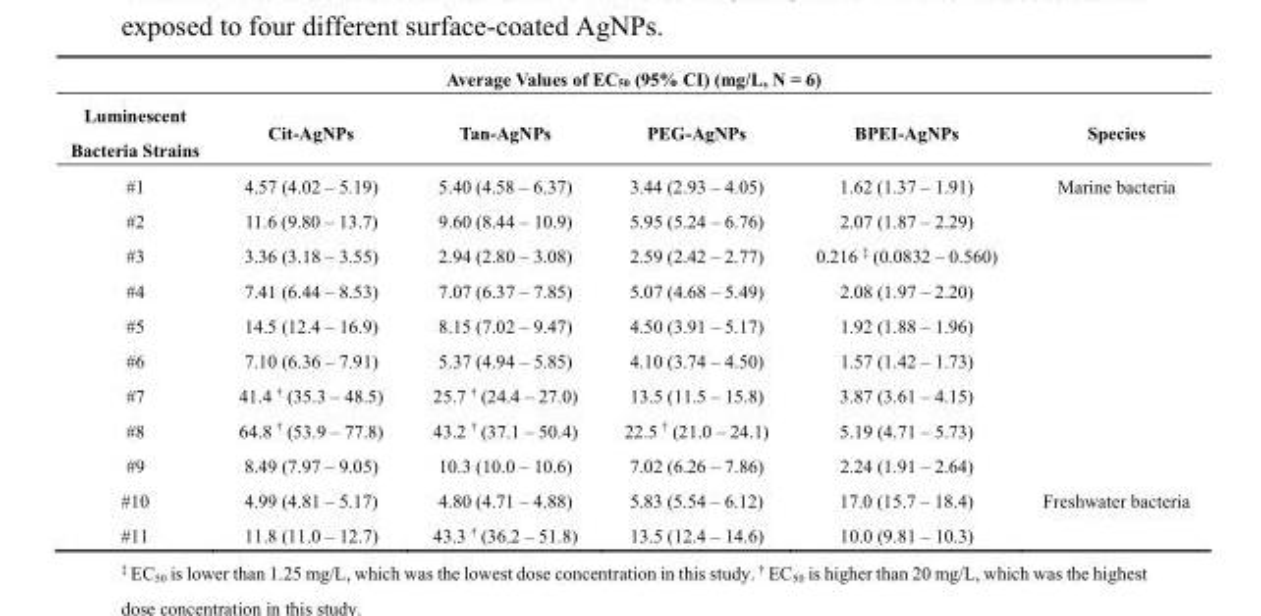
<table><thead><tr><td colspan="6">Average Values of EC<sub>50</sub> (95% CI) (mg/L, N = 6)</td></tr><tr><td>Luminescent Bacteria Strains</td><td>Cit-AgNPs</td><td>Tan-AgNPs</td><td>PEG-AgNPs</td><td>BPEI-AgNPs</td><td>Species</td></tr></thead><tbody><tr><td>#1</td><td>4.57 (4.02 – 5.19)</td><td>5.40 (4.58 – 6.37)</td><td>3.44 (2.93 – 4.05)</td><td>1.62 (1.37 – 1.91)</td><td>Marine bacteria</td></tr><tr><td>#2</td><td>11.6 (9.80 – 13.7)</td><td>9.60 (8.44 – 10.9)</td><td>5.95 (5.24 – 6.76)</td><td>2.07 (1.87 – 2.29)</td><td></td></tr><tr><td>#3</td><td>3.36 (3.18 – 3.55)</td><td>2.94 (2.80 – 3.08)</td><td>2.59 (2.42 – 2.77)</td><td>0.216 <sup>‡</sup> (0.0832 – 0.560)</td><td></td></tr><tr><td>#4</td><td>7.41 (6.44 – 8.53)</td><td>7.07 (6.37 – 7.85)</td><td>5.07 (4.68 – 5.49)</td><td>2.08 (1.97 – 2.20)</td><td></td></tr><tr><td>#5</td><td>14.5 (12.4 – 16.9)</td><td>8.15 (7.02 – 9.47)</td><td>4.50 (3.91 – 5.17)</td><td>1.92 (1.88 – 1.96)</td><td></td></tr><tr><td>#6</td><td>7.10 (6.36 – 7.91)</td><td>5.37 (4.94 – 5.85)</td><td>4.10 (3.74 – 4.50)</td><td>1.57 (1.42 – 1.73)</td><td></td></tr><tr><td>#7</td><td>41.4 <sup>†</sup> (35.3 – 48.5)</td><td>25.7 <sup>†</sup> (24.4 – 27.0)</td><td>13.5 (11.5 – 15.8)</td><td>3.87 (3.61 – 4.15)</td><td></td></tr><tr><td>#8</td><td>64.8 <sup>†</sup> (53.9 – 77.8)</td><td>43.2 <sup>†</sup> (37.1 – 50.4)</td><td>22.5 <sup>†</sup> (21.0 – 24.1)</td><td>5.19 (4.71 – 5.73)</td><td></td></tr><tr><td>#9</td><td>8.49 (7.97 – 9.05)</td><td>10.3 (10.0 – 10.6)</td><td>7.02 (6.26 – 7.86)</td><td>2.24 (1.91 – 2.64)</td><td></td></tr><tr><td>#10</td><td>4.99 (4.81 – 5.17)</td><td>4.80 (4.71 – 4.88)</td><td>5.83 (5.54 – 6.12)</td><td>17.0 (15.7 – 18.4)</td><td>Freshwater bacteria</td></tr><tr><td>#11</td><td>11.8 (11.0 – 12.7)</td><td>43.3 <sup>†</sup> (36.2 – 51.8)</td><td>13.5 (12.4 – 14.6)</td><td>10.0 (9.81 – 10.3)</td><td></td></tr></tbody></table>